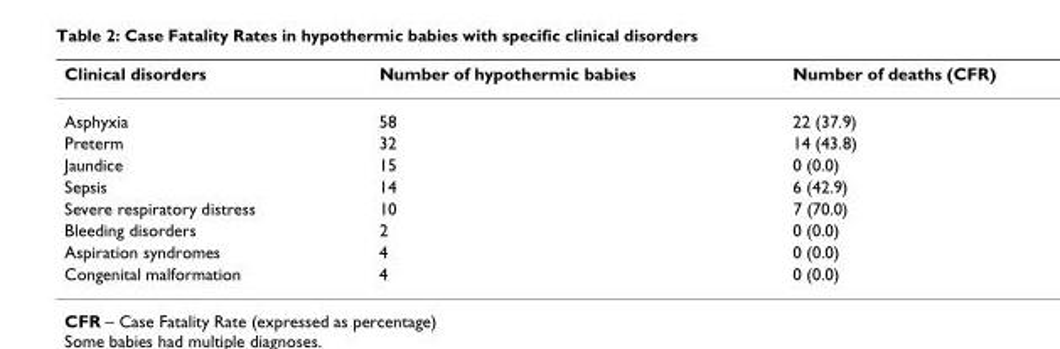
<table><thead><tr><td>Clinical disorders</td><td>Number of hypothermic babies</td><td>Number of deaths (CFR)</td></tr></thead><tbody><tr><td>Asphyxia</td><td>58</td><td>22 (37.9)</td></tr><tr><td>Preterm</td><td>32</td><td>14 (43.8)</td></tr><tr><td>Jaundice</td><td>15</td><td>0 (0.0)</td></tr><tr><td>Sepsis</td><td>14</td><td>6 (42.9)</td></tr><tr><td>Severe respiratory distress</td><td>10</td><td>7 (70.0)</td></tr><tr><td>Bleeding disorders</td><td>2</td><td>0 (0.0)</td></tr><tr><td>Aspiration syndromes</td><td>4</td><td>0 (0.0)</td></tr><tr><td>Congenital malformation</td><td>4</td><td>0 (0.0)</td></tr></tbody></table>